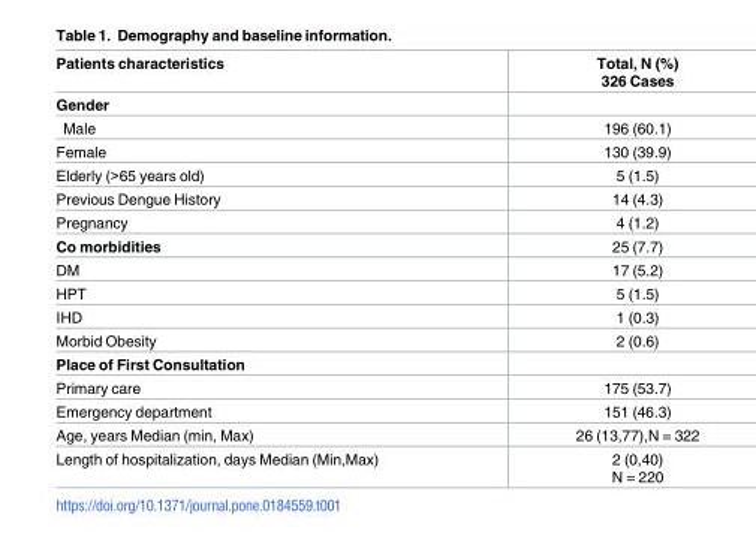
<table><thead><tr><td>Patients characteristics</td><td>Total, N (%) 326 Cases</td></tr></thead><tbody><tr><td colspan="2">Gender</td></tr><tr><td>Male</td><td>196 (60.1)</td></tr><tr><td>Female</td><td>130 (39.9)</td></tr><tr><td>Elderly (&gt;65 years old)</td><td>5 (1.5)</td></tr><tr><td>Previous Dengue History</td><td>14 (4.3)</td></tr><tr><td>Pregnancy</td><td>4 (1.2)</td></tr><tr><td>Co morbidities</td><td>25 (7.7)</td></tr><tr><td>DM</td><td>17 (5.2)</td></tr><tr><td>HPT</td><td>5 (1.5)</td></tr><tr><td>IHD</td><td>1 (0.3)</td></tr><tr><td>Morbid Obesity</td><td>2 (0.6)</td></tr><tr><td colspan="2">Place of First Consultation</td></tr><tr><td>Primary care</td><td>175 (53.7)</td></tr><tr><td>Emergency department</td><td>151 (46.3)</td></tr><tr><td>Age, years Median (min, Max)</td><td>26 (13,77),N = 322</td></tr><tr><td>Length of hospitalization, days Median (Min,Max)</td><td>2 (0,40) N = 220</td></tr></tbody></table>